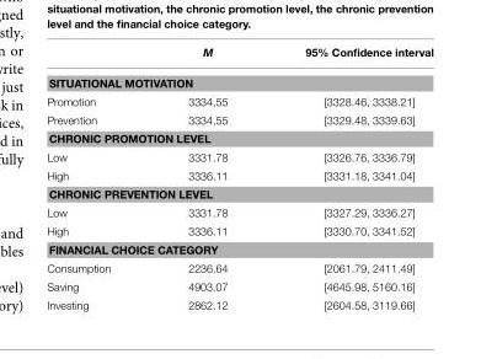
<table><thead><tr><td></td><td>M</td><td>95% Confidence interval</td></tr></thead><tbody><tr><td colspan="3">SITUATIONAL MOTIVATION</td></tr><tr><td>Promotion</td><td>3334,55</td><td>[3328.46, 3338.21]</td></tr><tr><td>Prevention</td><td>3334,55</td><td>[3329.48, 3339.63]</td></tr><tr><td colspan="3">CHRONIC PROMOTION LEVEL</td></tr><tr><td>Low</td><td>3331.78</td><td>[3326.76, 3336.79]</td></tr><tr><td>High</td><td>3336.11</td><td>[3331.18, 3341.04]</td></tr><tr><td colspan="3">CHRONIC PREVENTION LEVEL</td></tr><tr><td>Low</td><td>3331.78</td><td>[3327.29, 3336.27]</td></tr><tr><td>High</td><td>3336.11</td><td>[3330.70, 3341.52]</td></tr><tr><td colspan="3">FINANCIAL CHOICE CATEGORY</td></tr><tr><td>Consumption</td><td>2236.64</td><td>[2061.79, 2411.49]</td></tr><tr><td>Saving</td><td>4903.07</td><td>[4645.98, 5160.16]</td></tr><tr><td>Investing</td><td>2862.12</td><td>[2604.58, 3119.66]</td></tr></tbody></table>